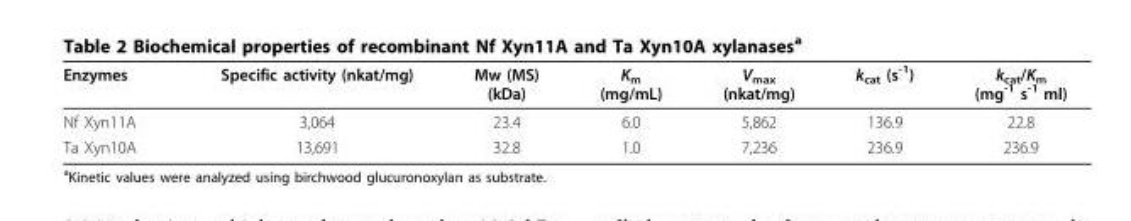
<table><thead><tr><td>Enzymes</td><td>Specific activity (nkat/mg)</td><td>Mw (MS) (kDa)</td><td>K<sub>m</sub> (mg/mL)</td><td>V<sub>max</sub> (nkat/mg)</td><td>k<sub>cat</sub> (s<sup>-1</sup>)</td><td>k<sub>cat</sub>/K<sub>m</sub> (mg<sup>-1</sup> s<sup>-1</sup> ml)</td></tr></thead><tbody><tr><td>Nf Xyn11A</td><td>3,064</td><td>23.4</td><td>6.0</td><td>5,862</td><td>136.9</td><td>22.8</td></tr><tr><td>Ta Xyn10A</td><td>13,691</td><td>32.8</td><td>1.0</td><td>7,236</td><td>236.9</td><td>236.9</td></tr></tbody></table>